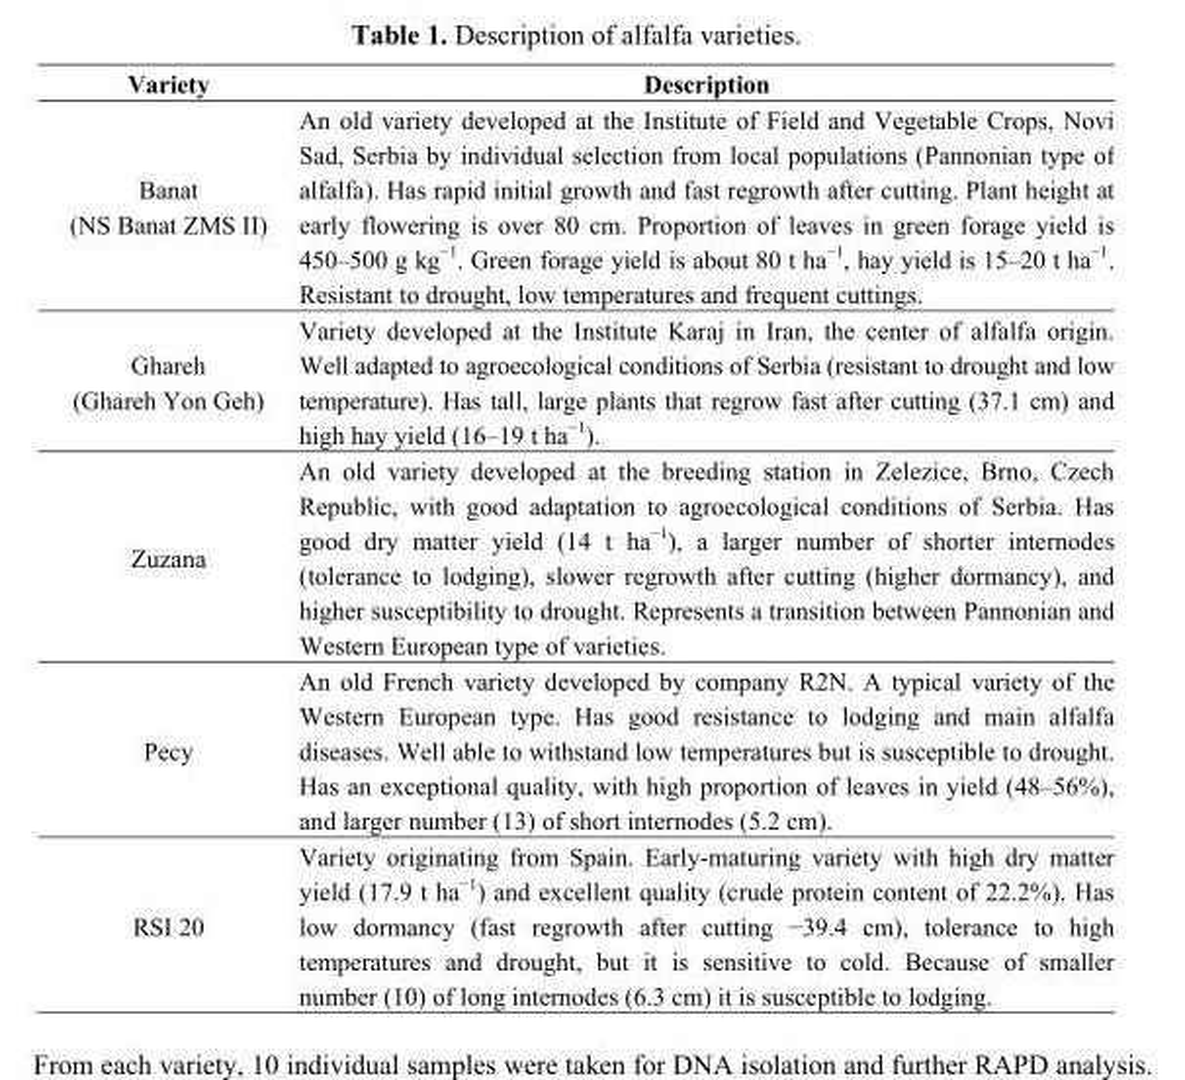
<table><thead><tr><td>Variety</td><td>Description</td></tr></thead><tbody><tr><td>Banat (NS Banat ZMS II)</td><td>An old variety developed at the Institute of Field and Vegetable Crops, Novi Sad, Serbia by individual selection from local populations (Pannonian type of alfalfa). Has rapid initial growth and fast regrowth after cutting. Plant height at early flowering is over 80 cm. Proportion of leaves in green forage yield is 450–500 g kg<sup>−1</sup>. Green forage yield is about 80 t ha<sup>−1</sup>, hay yield is 15–20 t ha<sup>−1</sup>. Resistant to drought, low temperatures and frequent cuttings.</td></tr><tr><td>Ghareh (Ghareh Yon Geh)</td><td>Variety developed at the Institute Karaj in Iran, the center of alfalfa origin. Well adapted to agroecological conditions of Serbia (resistant to drought and low temperature). Has tall, large plants that regrow fast after cutting (37.1 cm) and high hay yield (16–19 t ha<sup>−1</sup>).</td></tr><tr><td>Zuzana</td><td>An old variety developed at the breeding station in Zelezice, Brno, Czech Republic, with good adaptation to agroecological conditions of Serbia. Has good dry matter yield (14 t ha<sup>−1</sup>), a larger number of shorter internodes (tolerance to lodging), slower regrowth after cutting (higher dormancy), and higher susceptibility to drought. Represents a transition between Pannonian and Western European type of varieties.</td></tr><tr><td>Pecy</td><td>An old French variety developed by company R2N. A typical variety of the Western European type. Has good resistance to lodging and main alfalfa diseases. Well able to withstand low temperatures but is susceptible to drought. Has an exceptional quality, with high proportion of leaves in yield (48–56%), and larger number (13) of short internodes (5.2 cm).</td></tr><tr><td>RSI 20</td><td>Variety originating from Spain. Early-maturing variety with high dry matter yield (17.9 t ha<sup>−1</sup>) and excellent quality (crude protein content of 22.2%). Has low dormancy (fast regrowth after cutting −39.4 cm), tolerance to high temperatures and drought, but it is sensitive to cold. Because of smaller number (10) of long internodes (6.3 cm) it is susceptible to lodging.</td></tr></tbody></table>